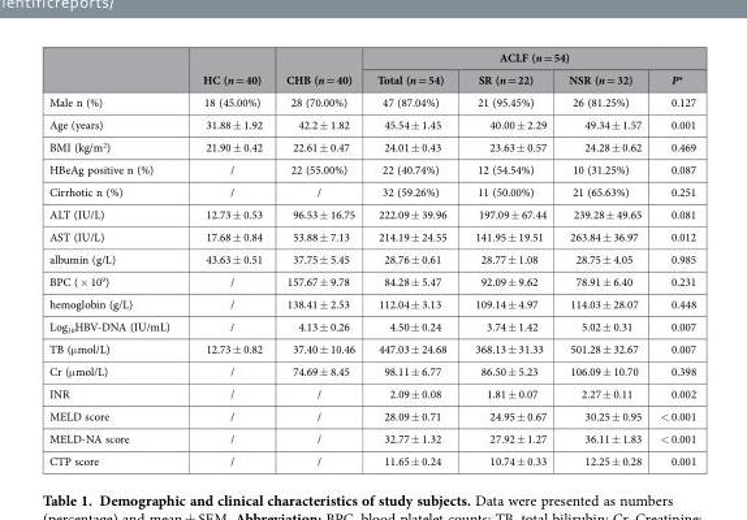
<table><thead><tr><td rowspan="2"></td><td rowspan="2">HC (n = 40)</td><td rowspan="2">CHB (n = 40)</td><td colspan="4">ACLF (n = 54)</td></tr><tr><td>Total (n = 54)</td><td>SR (n = 22)</td><td>NSR (n = 32)</td><td>P*</td></tr></thead><tbody><tr><td>Male n (%)</td><td>18 (45.00%)</td><td>28 (70.00%)</td><td>47 (87.04%)</td><td>21 (95.45%)</td><td>26 (81.25%)</td><td>0.127</td></tr><tr><td>Age (years)</td><td>31.88 ± 1.92</td><td>42.2 ± 1.82</td><td>45.54 ± 1.45</td><td>40.00 ± 2.29</td><td>49.34 ± 1.57</td><td>0.001</td></tr><tr><td>BMI (kg/m<sup>2</sup>)</td><td>21.90 ± 0.42</td><td>22.61 ± 0.47</td><td>24.01 ± 0.43</td><td>23.63 ± 0.57</td><td>24.28 ± 0.62</td><td>0.469</td></tr><tr><td>HBeAg positive n (%)</td><td>/</td><td>22 (55.00%)</td><td>22 (40.74%)</td><td>12 (54.54%)</td><td>10 (31.25%)</td><td>0.087</td></tr><tr><td>Cirrhotic n (%)</td><td>/</td><td>/</td><td>32 (59.26%)</td><td>11 (50.00%)</td><td>21 (65.63%)</td><td>0.251</td></tr><tr><td>ALT (IU/L)</td><td>12.73 ± 0.53</td><td>96.53 ± 16.75</td><td>222.09 ± 39.96</td><td>197.09 ± 67.44</td><td>239.28 ± 49.65</td><td>0.081</td></tr><tr><td>AST (IU/L)</td><td>17.68 ± 0.84</td><td>53.88 ± 7.13</td><td>214.19 ± 24.55</td><td>141.95 ± 19.51</td><td>263.84 ± 36.97</td><td>0.012</td></tr><tr><td>albumin (g/L)</td><td>43.63 ± 0.51</td><td>37.75 ± 5.45</td><td>28.76 ± 0.61</td><td>28.77 ± 1.08</td><td>28.75 ± 4.05</td><td>0.985</td></tr><tr><td>BPC ( × 10<sup>9</sup>)</td><td>/</td><td>157.67 ± 9.78</td><td>84.28 ± 5.47</td><td>92.09 ± 9.62</td><td>78.91 ± 6.40</td><td>0.231</td></tr><tr><td>hemoglobin (g/L)</td><td>/</td><td>138.41 ± 2.53</td><td>112.04 ± 3.13</td><td>109.14 ± 4.97</td><td>114.03 ± 28.07</td><td>0.448</td></tr><tr><td>Log<sub>10</sub>HBV-DNA (IU/mL)</td><td>/</td><td>4.13 ± 0.26</td><td>4.50 ± 0.24</td><td>3.74 ± 1.42</td><td>5.02 ± 0.31</td><td>0.007</td></tr><tr><td>TB (μ mol/L)</td><td>12.73 ± 0.82</td><td>37.40 ± 10.46</td><td>447.03 ± 24.68</td><td>368.13 ± 31.33</td><td>501.28 ± 32.67</td><td>0.007</td></tr><tr><td>Cr (μ mol/L)</td><td>/</td><td>74.69 ± 8.45</td><td>98.11 ± 6.77</td><td>86.50 ± 5.23</td><td>106.09 ± 10.70</td><td>0.398</td></tr><tr><td>INR</td><td>/</td><td>/</td><td>2.09 ± 0.08</td><td>1.81 ± 0.07</td><td>2.27 ± 0.11</td><td>0.002</td></tr><tr><td>MELD score</td><td>/</td><td>/</td><td>28.09 ± 0.71</td><td>24.95 ± 0.67</td><td>30.25 ± 0.95</td><td>&lt; 0.001</td></tr><tr><td>MELD-NA score</td><td>/</td><td>/</td><td>32.77 ± 1.32</td><td>27.92 ± 1.27</td><td>36.11 ± 1.83</td><td>&lt; 0.001</td></tr><tr><td>CTP score</td><td>/</td><td>/</td><td>11.65 ± 0.24</td><td>10.74 ± 0.33</td><td>12.25 ± 0.28</td><td>0.001</td></tr></tbody></table>